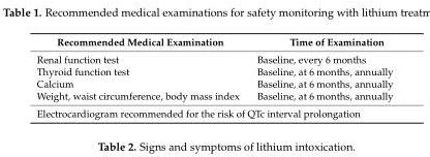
<table><thead><tr><td>Recommended Medical Examination</td><td>Time of Examination</td></tr></thead><tbody><tr><td>Renal function test</td><td>Baseline, every 6 months</td></tr><tr><td>Thyroid function test</td><td>Baseline, at 6 months, annually</td></tr><tr><td>Calcium</td><td>Baseline, at 6 months, annually</td></tr><tr><td>Weight, waist circumference, body mass index</td><td>Baseline, at 6 months, annually</td></tr><tr><td colspan="2">Electrocardiogram recommended for the risk of QTc interval prolongation</td></tr></tbody></table>